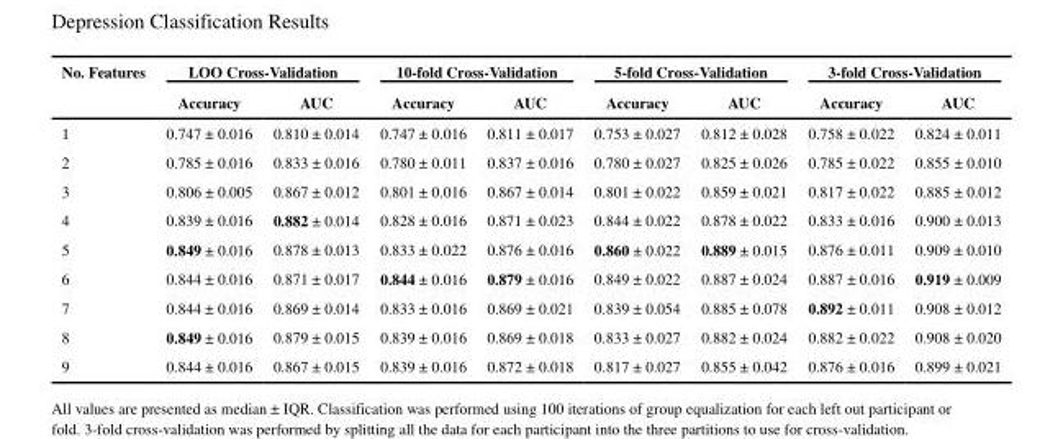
<table><thead><tr><td rowspan="2">No. Features</td><td colspan="2">LOO Cross-Validation</td><td colspan="2">10-fold Cross-Validation</td><td colspan="2">5-fold Cross-Validation</td><td colspan="2">3-fold Cross-Validation</td></tr><tr><td>Accuracy</td><td>AUC</td><td>Accuracy</td><td>AUC</td><td>Accuracy</td><td>AUC</td><td>Accuracy</td><td>AUC</td></tr></thead><tbody><tr><td>1</td><td>0.747 ± 0.016</td><td>0.810 ± 0.014</td><td>0.747 ± 0.016</td><td>0.811 ± 0.017</td><td>0.753 ± 0.027</td><td>0.812 ± 0.028</td><td>0.758 ± 0.022</td><td>0.824 ± 0.011</td></tr><tr><td>2</td><td>0.785 ± 0.016</td><td>0.833 ± 0.016</td><td>0.780 ± 0.011</td><td>0.837 ± 0.016</td><td>0.780 ± 0.027</td><td>0.825 ± 0.026</td><td>0.785 ± 0.022</td><td>0.855 ± 0.010</td></tr><tr><td>3</td><td>0.806 ± 0.005</td><td>0.867 ± 0.012</td><td>0.801 ± 0.016</td><td>0.867 ± 0.014</td><td>0.801 ± 0.022</td><td>0.859 ± 0.021</td><td>0.817 ± 0.022</td><td>0.885 ± 0.012</td></tr><tr><td>4</td><td>0.839 ± 0.016</td><td>0.882 ± 0.014</td><td>0.828 ± 0.016</td><td>0.871 ± 0.023</td><td>0.844 ± 0.022</td><td>0.878 ± 0.022</td><td>0.833 ± 0.016</td><td>0.900 ± 0.013</td></tr><tr><td>5</td><td>0.849 ± 0.016</td><td>0.878 ± 0.013</td><td>0.833 ± 0.022</td><td>0.876 ± 0.016</td><td>0.860 ± 0.022</td><td>0.889 ± 0.015</td><td>0.876 ± 0.011</td><td>0.909 ± 0.010</td></tr><tr><td>6</td><td>0.844 ± 0.016</td><td>0.871 ± 0.017</td><td>0.844 ± 0.016</td><td>0.879 ± 0.016</td><td>0.849 ± 0.022</td><td>0.887 ± 0.024</td><td>0.887 ± 0.016</td><td>0.919 ± 0.009</td></tr><tr><td>7</td><td>0.844 ± 0.016</td><td>0.869 ± 0.014</td><td>0.833 ± 0.016</td><td>0.869 ± 0.021</td><td>0.839 ± 0.054</td><td>0.885 ± 0.078</td><td>0.892 ± 0.011</td><td>0.908 ± 0.012</td></tr><tr><td>8</td><td>0.849 ± 0.016</td><td>0.879 ± 0.015</td><td>0.839 ± 0.016</td><td>0.869 ± 0.018</td><td>0.833 ± 0.027</td><td>0.882 ± 0.024</td><td>0.882 ± 0.022</td><td>0.908 ± 0.020</td></tr><tr><td>9</td><td>0.844 ± 0.016</td><td>0.867 ± 0.015</td><td>0.839 ± 0.016</td><td>0.872 ± 0.018</td><td>0.817 ± 0.027</td><td>0.855 ± 0.042</td><td>0.876 ± 0.016</td><td>0.899 ± 0.021</td></tr></tbody></table>